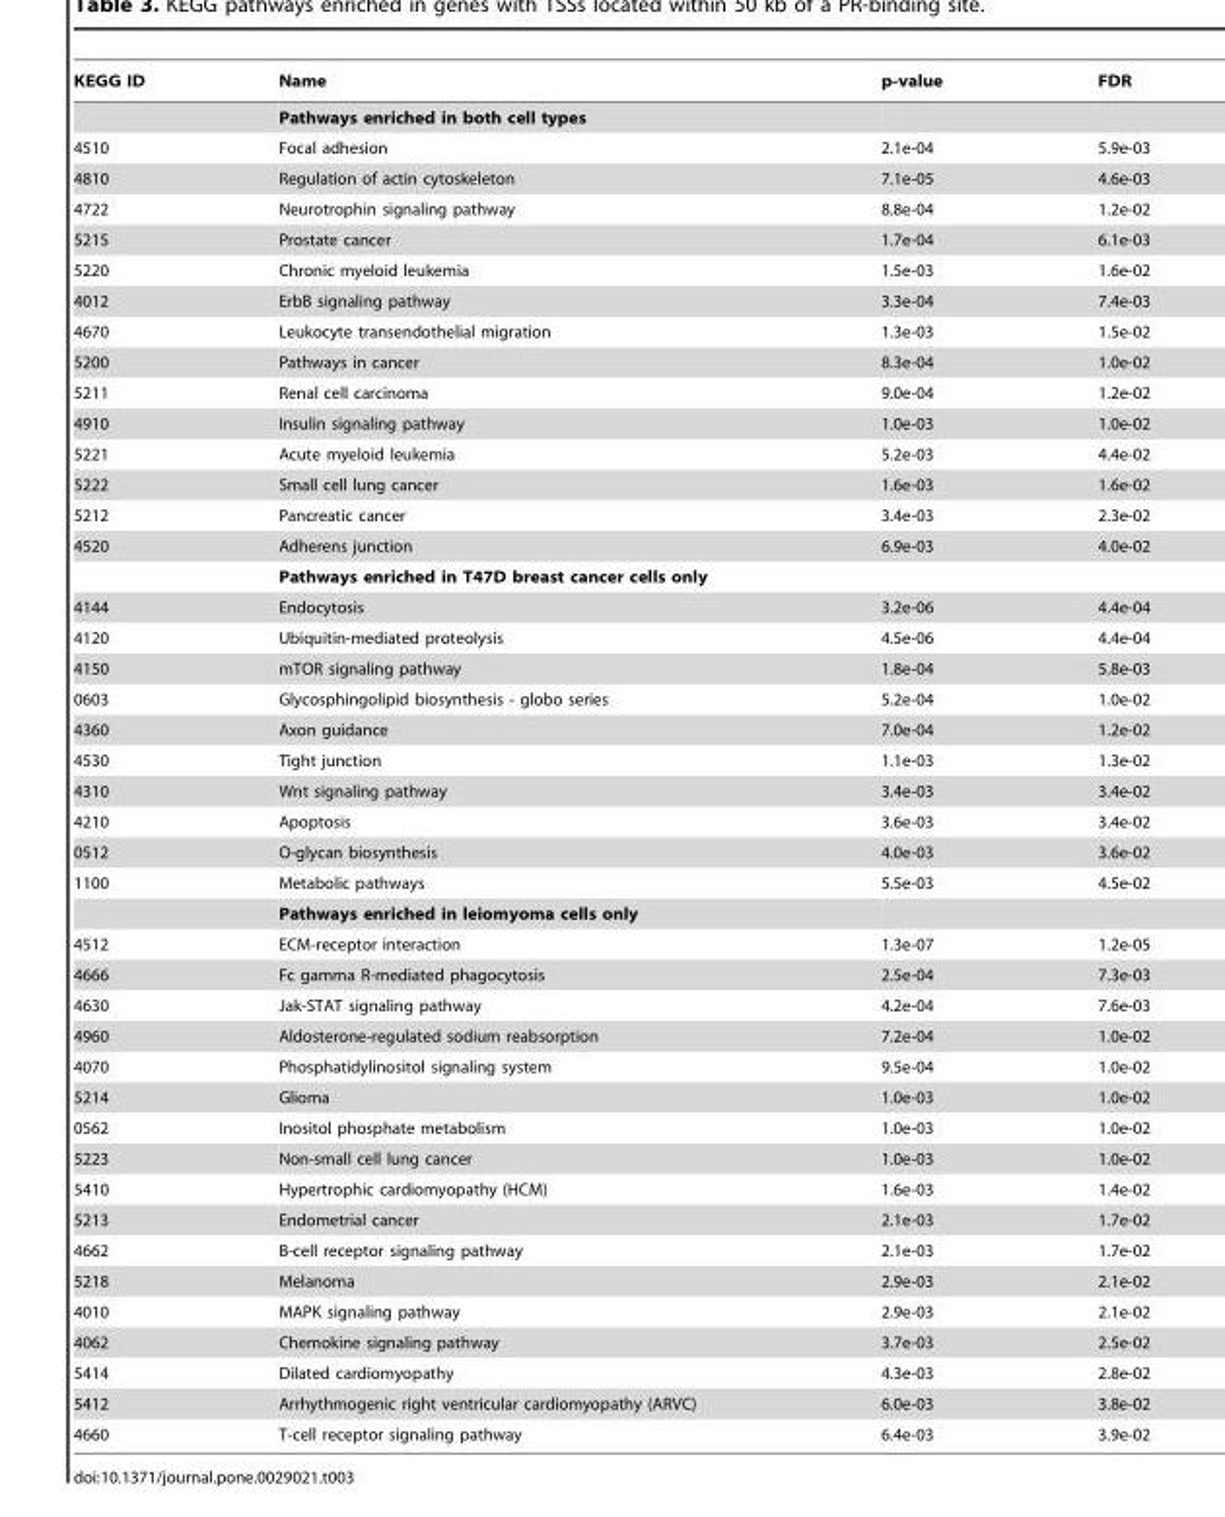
<table><thead><tr><td>KEGG ID</td><td>Name</td><td>p-value</td><td>FDR</td></tr></thead><tbody><tr><td></td><td>Pathways enriched in both cell types</td><td></td><td></td></tr><tr><td>4510</td><td>Focal adhesion</td><td>2.1e-04</td><td>5.9e-03</td></tr><tr><td>4810</td><td>Regulation of actin cytoskeleton</td><td>7.1e-05</td><td>4.6e-03</td></tr><tr><td>4722</td><td>Neurotrophin signaling pathway</td><td>8.8e-04</td><td>1.2e-02</td></tr><tr><td>5215</td><td>Prostate cancer</td><td>1.7e-04</td><td>6.1e-03</td></tr><tr><td>5220</td><td>Chronic myeloid leukemia</td><td>1.5e-03</td><td>1.6e-02</td></tr><tr><td>4012</td><td>ErbB signaling pathway</td><td>3.3e-04</td><td>7.4e-03</td></tr><tr><td>4670</td><td>Leukocyte transendothelial migration</td><td>1.3e-03</td><td>1.5e-02</td></tr><tr><td>5200</td><td>Pathways in cancer</td><td>8.3e-04</td><td>1.0e-02</td></tr><tr><td>5211</td><td>Renal cell carcinoma</td><td>9.0e-04</td><td>1.2e-02</td></tr><tr><td>4910</td><td>Insulin signaling pathway</td><td>1.0e-03</td><td>1.0e-02</td></tr><tr><td>5221</td><td>Acute myeloid leukemia</td><td>5.2e-03</td><td>4.4e-02</td></tr><tr><td>5222</td><td>Small cell lung cancer</td><td>1.6e-03</td><td>1.6e-02</td></tr><tr><td>5212</td><td>Pancreatic cancer</td><td>3.4e-03</td><td>2.3e-02</td></tr><tr><td rowspan="2">4520</td><td>Adherens junction</td><td>6.9e-03</td><td>4.0e-02</td></tr><tr><td>Pathways enriched in T47D breast cancer cells only</td><td></td><td></td></tr><tr><td>4144</td><td>Endocytosis</td><td>3.2e-06</td><td>4.4e-04</td></tr><tr><td>4120</td><td>Ubiquitin-mediated proteolysis</td><td>4.5e-06</td><td>4.4e-04</td></tr><tr><td>4150</td><td>mTOR signaling pathway</td><td>1.8e-04</td><td>5.8e-03</td></tr><tr><td>0603</td><td>Glycosphingolipid biosynthesis - globo series</td><td>5.2e-04</td><td>1.0e-02</td></tr><tr><td>4360</td><td>Axon guidance</td><td>7.0e-04</td><td>1.2e-02</td></tr><tr><td>4530</td><td>Tight junction</td><td>1.1e-03</td><td>1.3e-02</td></tr><tr><td>4310</td><td>Wnt signaling pathway</td><td>3.4e-03</td><td>3.4e-02</td></tr><tr><td>4210</td><td>Apoptosis</td><td>3.6e-03</td><td>3.4e-02</td></tr><tr><td>0512</td><td>O-glycan biosynthesis</td><td>4.0e-03</td><td>3.6e-02</td></tr><tr><td rowspan="2">1100</td><td>Metabolic pathways</td><td>5.5e-03</td><td>4.5e-02</td></tr><tr><td>Pathways enriched in leiomyoma cells only</td><td></td><td></td></tr><tr><td>4512</td><td>ECM-receptor interaction</td><td>1.3e-07</td><td>1.2e-05</td></tr><tr><td>4666</td><td>Fc gamma R-mediated phagocytosis</td><td>2.5e-04</td><td>7.3e-03</td></tr><tr><td>4630</td><td>Jak-STAT signaling pathway</td><td>4.2e-04</td><td>7.6e-03</td></tr><tr><td>4960</td><td>Aldosterone-regulated sodium reabsorption</td><td>7.2e-04</td><td>1.0e-02</td></tr><tr><td>4070</td><td>Phosphatidylinositol signaling system</td><td>9.5e-04</td><td>1.0e-02</td></tr><tr><td>5214</td><td>Glioma</td><td>1.0e-03</td><td>1.0e-02</td></tr><tr><td>0562</td><td>Inositol phosphate metabolism</td><td>1.0e-03</td><td>1.0e-02</td></tr><tr><td>5223</td><td>Non-small cell lung cancer</td><td>1.0e-03</td><td>1.0e-02</td></tr><tr><td>5410</td><td>Hypertrophic cardiomyopathy (HCM)</td><td>1.6e-03</td><td>1.4e-02</td></tr><tr><td>5213</td><td>Endometrial cancer</td><td>2.1e-03</td><td>1.7e-02</td></tr><tr><td>4662</td><td>B-cell receptor signaling pathway</td><td>2.1e-03</td><td>1.7e-02</td></tr><tr><td>5218</td><td>Melanoma</td><td>2.9e-03</td><td>2.1e-02</td></tr><tr><td>4010</td><td>MAPK signaling pathway</td><td>2.9e-03</td><td>2.1e-02</td></tr><tr><td>4062</td><td>Chemokine signaling pathway</td><td>3.7e-03</td><td>2.5e-02</td></tr><tr><td>5414</td><td>Dilated cardiomyopathy</td><td>4.3e-03</td><td>2.8e-02</td></tr><tr><td>5412</td><td>Arrhythmogenic right ventricular cardiomyopathy (ARVC)</td><td>6.0e-03</td><td>3.8e-02</td></tr><tr><td>4660</td><td>T-cell receptor signaling pathway</td><td>6.4e-03</td><td>3.9e-02</td></tr></tbody></table>